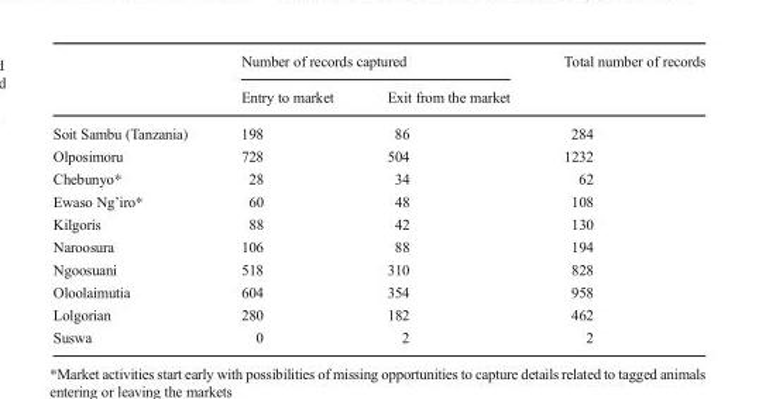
<table><thead><tr><td rowspan="2"></td><td colspan="2">Number of records captured</td><td rowspan="2">Total number of records</td></tr><tr><td>Entry to market</td><td>Exit from the market</td></tr></thead><tbody><tr><td>Soit Sambu (Tanzania)</td><td>198</td><td>86</td><td>284</td></tr><tr><td>Olposimoru</td><td>728</td><td>504</td><td>1232</td></tr><tr><td>Chebunyo*</td><td>28</td><td>34</td><td>62</td></tr><tr><td>Ewaso Ng’iro*</td><td>60</td><td>48</td><td>108</td></tr><tr><td>Kilgoris</td><td>88</td><td>42</td><td>130</td></tr><tr><td>Naroosura</td><td>106</td><td>88</td><td>194</td></tr><tr><td>Ngoosuani</td><td>518</td><td>310</td><td>828</td></tr><tr><td>Oloolaimutia</td><td>604</td><td>354</td><td>958</td></tr><tr><td>Lolgorian</td><td>280</td><td>182</td><td>462</td></tr><tr><td>Suswa</td><td>0</td><td>2</td><td>2</td></tr></tbody></table>